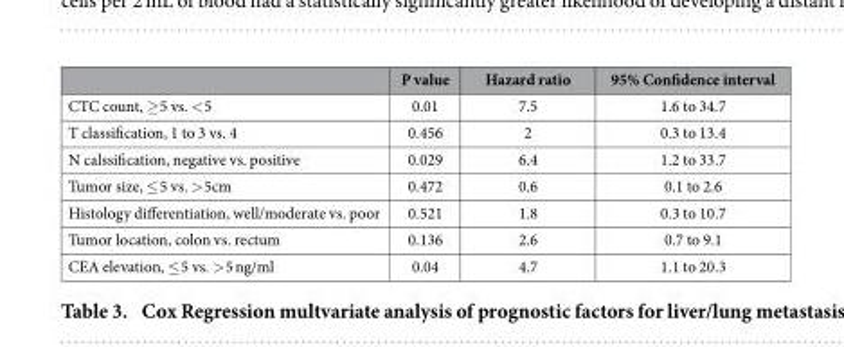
<table><thead><tr><td></td><td>P value</td><td>Hazard ratio</td><td>95% Confidence interval</td></tr></thead><tbody><tr><td>CTC count, ≥ 5 vs. &lt; 5</td><td>0.01</td><td>7.5</td><td>1.6 to 34.7</td></tr><tr><td>T classification, 1 to 3 vs. 4</td><td>0.456</td><td>2</td><td>0.3 to 13.4</td></tr><tr><td>N calssification, negative vs. positive</td><td>0.029</td><td>6.4</td><td>1.2 to 33.7</td></tr><tr><td>Tumor size, ≤ 5 vs. &gt; 5cm</td><td>0.472</td><td>0.6</td><td>0.1 to 2.6</td></tr><tr><td>Histology differentiation, well/moderate vs. poor</td><td>0.521</td><td>1.8</td><td>0.3 to 10.7</td></tr><tr><td>Tumor location, colon vs. rectum</td><td>0.136</td><td>2.6</td><td>0.7 to 9.1</td></tr><tr><td>CEA elevation, ≤ 5 vs. &gt; 5 ng/ml</td><td>0.04</td><td>4.7</td><td>1.1 to 20.3</td></tr></tbody></table>